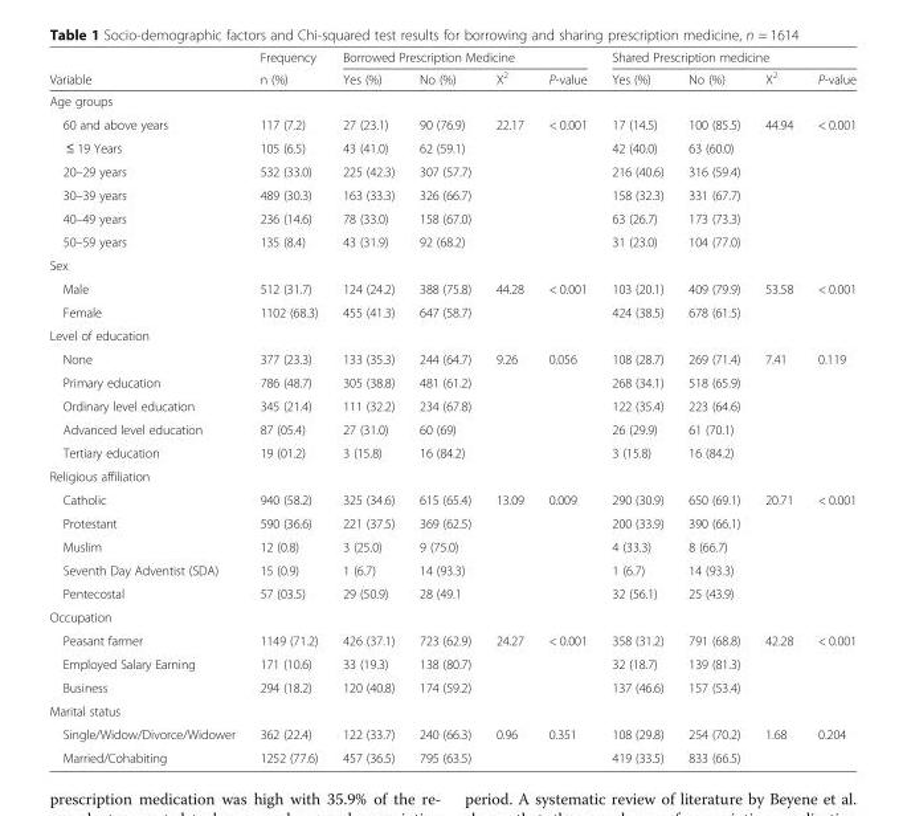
<table><thead><tr><td rowspan="2">Variable</td><td rowspan="2">Frequency n (%)</td><td colspan="4">Borrowed Prescription Medicine</td><td colspan="4">Shared Prescription medicine</td></tr><tr><td>Yes (%)</td><td>No (%)</td><td>Χ<sup>2</sup></td><td>P-value</td><td>Yes (%)</td><td>No (%)</td><td>Χ<sup>2</sup></td><td>P-value</td></tr></thead><tbody><tr><td colspan="10">Age groups</td></tr><tr><td>60 and above years</td><td>117 (7.2)</td><td>27 (23.1)</td><td>90 (76.9)</td><td rowspan="6">22.17</td><td rowspan="6">&lt; 0.001</td><td>17 (14.5)</td><td>100 (85.5)</td><td rowspan="6">44.94</td><td rowspan="6">&lt; 0.001</td></tr><tr><td>≤ 19 Years</td><td>105 (6.5)</td><td>43 (41.0)</td><td>62 (59.1)</td><td>42 (40.0)</td><td>63 (60.0)</td></tr><tr><td>20–29 years</td><td>532 (33.0)</td><td>225 (42.3)</td><td>307 (57.7)</td><td>216 (40.6)</td><td>316 (59.4)</td></tr><tr><td>30–39 years</td><td>489 (30.3)</td><td>163 (33.3)</td><td>326 (66.7)</td><td>158 (32.3)</td><td>331 (67.7)</td></tr><tr><td>40–49 years</td><td>236 (14.6)</td><td>78 (33.0)</td><td>158 (67.0)</td><td>63 (26.7)</td><td>173 (73.3)</td></tr><tr><td>50–59 years</td><td>135 (8.4)</td><td>43 (31.9)</td><td>92 (68.2)</td><td>31 (23.0)</td><td>104 (77.0)</td></tr><tr><td colspan="10">Sex</td></tr><tr><td>Male</td><td>512 (31.7)</td><td>124 (24.2)</td><td>388 (75.8)</td><td rowspan="2">44.28</td><td rowspan="2">&lt; 0.001</td><td>103 (20.1)</td><td>409 (79.9)</td><td rowspan="2">53.58</td><td rowspan="2">&lt; 0.001</td></tr><tr><td>Female</td><td>1102 (68.3)</td><td>455 (41.3)</td><td>647 (58.7)</td><td>424 (38.5)</td><td>678 (61.5)</td></tr><tr><td colspan="10">Level of education</td></tr><tr><td>None</td><td>377 (23.3)</td><td>133 (35.3)</td><td>244 (64.7)</td><td rowspan="5">9.26</td><td rowspan="5">0.056</td><td>108 (28.7)</td><td>269 (71.4)</td><td rowspan="5">7.41</td><td rowspan="5">0.119</td></tr><tr><td>Primary education</td><td>786 (48.7)</td><td>305 (38.8)</td><td>481 (61.2)</td><td>268 (34.1)</td><td>518 (65.9)</td></tr><tr><td>Ordinary level education</td><td>345 (21.4)</td><td>111 (32.2)</td><td>234 (67.8)</td><td>122 (35.4)</td><td>223 (64.6)</td></tr><tr><td>Advanced level education</td><td>87 (05.4)</td><td>27 (31.0)</td><td>60 (69)</td><td>26 (29.9)</td><td>61 (70.1)</td></tr><tr><td>Tertiary education</td><td>19 (01.2)</td><td>3 (15.8)</td><td>16 (84.2)</td><td>3 (15.8)</td><td>16 (84.2)</td></tr><tr><td colspan="10">Religious affiliation</td></tr><tr><td>Catholic</td><td>940 (58.2)</td><td>325 (34.6)</td><td>615 (65.4)</td><td rowspan="5">13.09</td><td rowspan="5">0.009</td><td>290 (30.9)</td><td>650 (69.1)</td><td rowspan="5">20.71</td><td rowspan="5">&lt; 0.001</td></tr><tr><td>Protestant</td><td>590 (36.6)</td><td>221 (37.5)</td><td>369 (62.5)</td><td>200 (33.9)</td><td>390 (66.1)</td></tr><tr><td>Muslim</td><td>12 (0.8)</td><td>3 (25.0)</td><td>9 (75.0)</td><td>4 (33.3)</td><td>8 (66.7)</td></tr><tr><td>Seventh Day Adventist (SDA)</td><td>15 (0.9)</td><td>1 (6.7)</td><td>14 (93.3)</td><td>1 (6.7)</td><td>14 (93.3)</td></tr><tr><td>Pentecostal</td><td>57 (03.5)</td><td>29 (50.9)</td><td>28 (49.1</td><td>32 (56.1)</td><td>25 (43.9)</td></tr><tr><td colspan="10">Occupation</td></tr><tr><td>Peasant farmer</td><td>1149 (71.2)</td><td>426 (37.1)</td><td>723 (62.9)</td><td rowspan="3">24.27</td><td rowspan="3">&lt; 0.001</td><td>358 (31.2)</td><td>791 (68.8)</td><td rowspan="3">42.28</td><td rowspan="3">&lt; 0.001</td></tr><tr><td>Employed Salary Earning</td><td>171 (10.6)</td><td>33 (19.3)</td><td>138 (80.7)</td><td>32 (18.7)</td><td>139 (81.3)</td></tr><tr><td>Business</td><td>294 (18.2)</td><td>120 (40.8)</td><td>174 (59.2)</td><td>137 (46.6)</td><td>157 (53.4)</td></tr><tr><td colspan="10">Marital status</td></tr><tr><td>Single/Widow/Divorce/Widower</td><td>362 (22.4)</td><td>122 (33.7)</td><td>240 (66.3)</td><td rowspan="2">0.96</td><td rowspan="2">0.351</td><td>108 (29.8)</td><td>254 (70.2)</td><td rowspan="2">1.68</td><td rowspan="2">0.204</td></tr><tr><td>Married/Cohabiting</td><td>1252 (77.6)</td><td>457 (36.5)</td><td>795 (63.5)</td><td>419 (33.5)</td><td>833 (66.5)</td></tr></tbody></table>